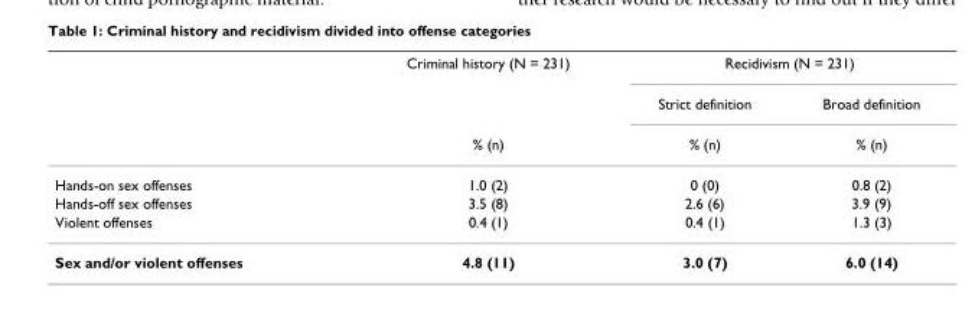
<table><thead><tr><td rowspan="3"></td><td rowspan="3">Criminal history (N = 231) % (n)</td><td colspan="2">Recidivism (N = 231)</td></tr><tr><td rowspan="2">Strict definition % (n)</td><td rowspan="2">Broad definition % (n)</td></tr><tr></tr></thead><tbody><tr><td>Hands-on sex offenses</td><td>1.0 (2)</td><td>0 (0)</td><td>0.8 (2)</td></tr><tr><td>Hands-off sex offenses</td><td>3.5 (8)</td><td>2.6 (6)</td><td>3.9 (9)</td></tr><tr><td>Violent offenses</td><td>0.4 (1)</td><td>0.4 (1)</td><td>1.3 (3)</td></tr><tr><td>Sex and/or violent offenses</td><td>4.8 (11)</td><td>3.0 (7)</td><td>6.0 (14)</td></tr></tbody></table>